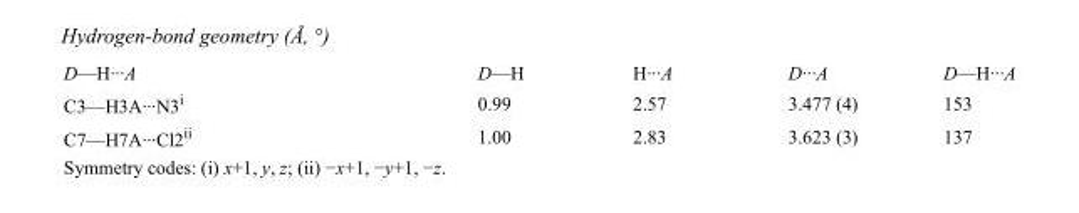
<table><tbody><tr><td>D—H···A</td><td>D—H</td><td>H···A</td><td>D···A</td><td>D—H···A</td></tr><tr><td>C3—H3A···N3<sup>i</sup></td><td>0.99</td><td>2.57</td><td>3.477 (4)</td><td>153</td></tr><tr><td>C7—H7A···Cl2<sup>ii</sup></td><td>1.00</td><td>2.83</td><td>3.623 (3)</td><td>137</td></tr></tbody></table>